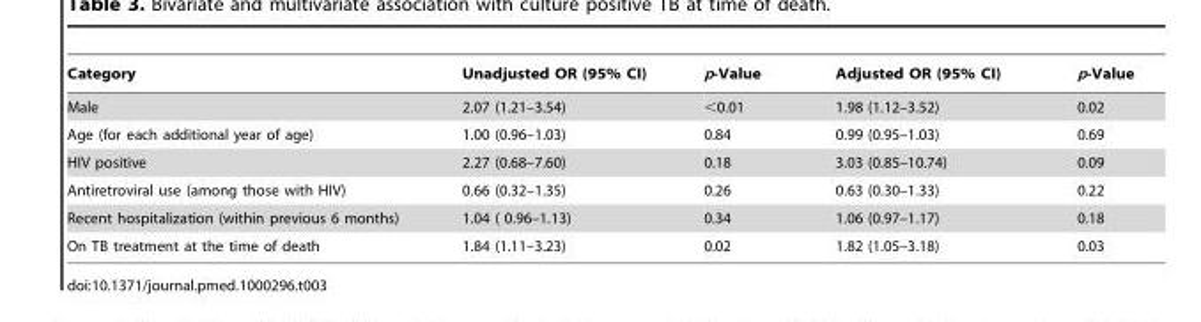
<table><thead><tr><td>Category</td><td>Unadjusted OR (95% CI)</td><td>p-Value</td><td>Adjusted OR (95% CI)</td><td>p-Value</td></tr></thead><tbody><tr><td>Male</td><td>2.07 (1.21–3.54)</td><td>&lt;0.01</td><td>1.98 (1.12–3.52)</td><td>0.02</td></tr><tr><td>Age (for each additional year of age)</td><td>1.00 (0.96–1.03)</td><td>0.84</td><td>0.99 (0.95–1.03)</td><td>0.69</td></tr><tr><td>HIV positive</td><td>2.27 (0.68–7.60)</td><td>0.18</td><td>3.03 (0.85–10.74)</td><td>0.09</td></tr><tr><td>Antiretroviral use (among those with HIV)</td><td>0.66 (0.32–1.35)</td><td>0.26</td><td>0.63 (0.30–1.33)</td><td>0.22</td></tr><tr><td>Recent hospitalization (within previous 6 months)</td><td>1.04 ( 0.96–1.13)</td><td>0.34</td><td>1.06 (0.97–1.17)</td><td>0.18</td></tr><tr><td>On TB treatment at the time of death</td><td>1.84 (1.11–3.23)</td><td>0.02</td><td>1.82 (1.05–3.18)</td><td>0.03</td></tr></tbody></table>